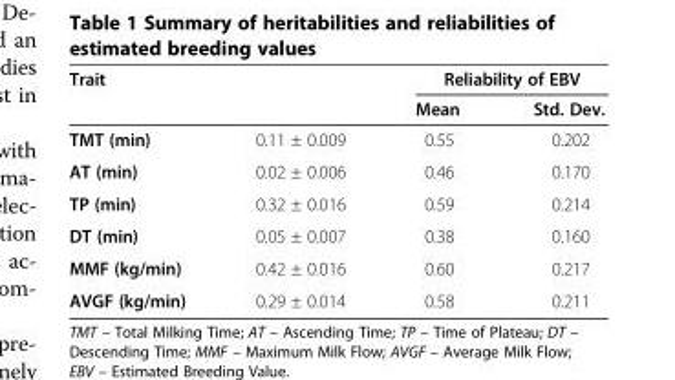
<table><thead><tr><td rowspan="2">Trait</td><td rowspan="2"></td><td colspan="2">Reliability of EBV</td></tr><tr><td>Mean</td><td>Std. Dev.</td></tr></thead><tbody><tr><td>TMT (min)</td><td>0.11 ± 0.009</td><td>0.55</td><td>0.202</td></tr><tr><td>AT (min)</td><td>0.02 ± 0.006</td><td>0.46</td><td>0.170</td></tr><tr><td>TP (min)</td><td>0.32 ± 0.016</td><td>0.59</td><td>0.214</td></tr><tr><td>DT (min)</td><td>0.05 ± 0.007</td><td>0.38</td><td>0.160</td></tr><tr><td>MMF (kg/min)</td><td>0.42 ± 0.016</td><td>0.60</td><td>0.217</td></tr><tr><td>AVGF (kg/min)</td><td>0.29 ± 0.014</td><td>0.58</td><td>0.211</td></tr></tbody></table>